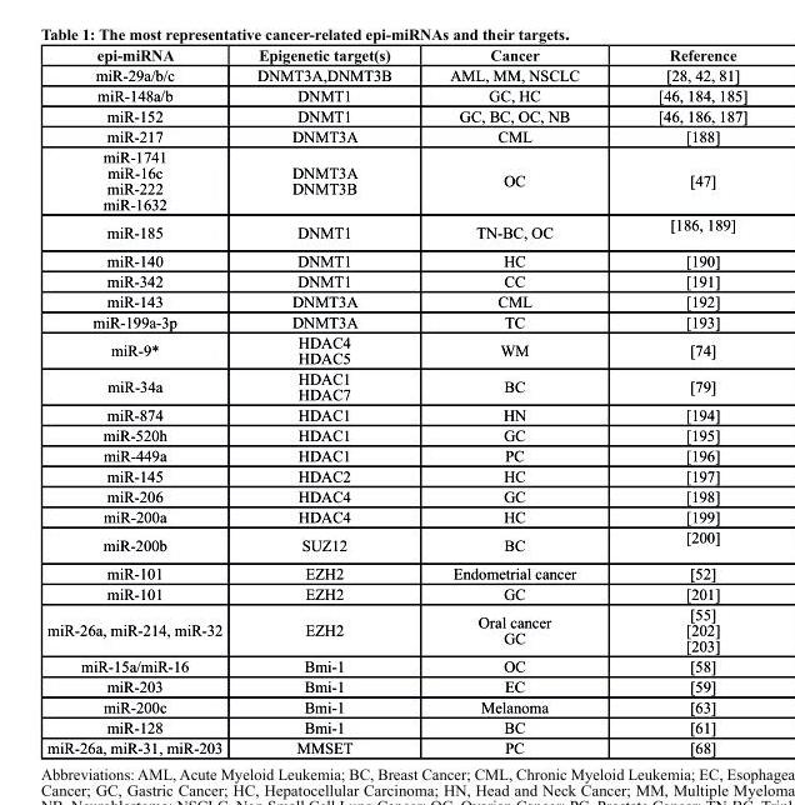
<table><thead><tr><td>epi-mirnA</td><td>Epigenetic target(s)</td><td>cancer</td><td>reference</td></tr></thead><tbody><tr><td>miR-29a/b/c</td><td>DNMT3A,DNMT3B</td><td>AML, MM, NSCLC</td><td>[28, 42, 81]</td></tr><tr><td>miR-148a/b</td><td>DNMT1</td><td>GC, HC</td><td>[46, 184, 185]</td></tr><tr><td>miR-152</td><td>DNMT1</td><td>GC, BC, OC, NB</td><td>[46, 186, 187]</td></tr><tr><td>miR-217</td><td>DNMT3A</td><td>CML</td><td>[188]</td></tr><tr><td>miR-1741 miR-16c miR-222 miR-1632</td><td>DNMT3A DNMT3B</td><td>OC</td><td>[47]</td></tr><tr><td>miR-185</td><td>DNMT1</td><td>TN-BC, OC</td><td>[186, 189]</td></tr><tr><td>miR-140</td><td>DNMT1</td><td>HC</td><td>[190]</td></tr><tr><td>miR-342</td><td>DNMT1</td><td>CC</td><td>[191]</td></tr><tr><td>miR-143</td><td>DNMT3A</td><td>CML</td><td>[192]</td></tr><tr><td>miR-199a-3p</td><td>DNMT3A</td><td>TC</td><td>[193]</td></tr><tr><td>miR-9*</td><td>HDAC4 HDAC5</td><td>WM</td><td>[74]</td></tr><tr><td>miR-34a</td><td>HDAC1 HDAC7</td><td>BC</td><td>[79]</td></tr><tr><td>miR-874</td><td>HDAC1</td><td>HN</td><td>[194]</td></tr><tr><td>miR-520h</td><td>HDAC1</td><td>GC</td><td>[195]</td></tr><tr><td>miR-449a</td><td>HDAC1</td><td>PC</td><td>[196]</td></tr><tr><td>miR-145</td><td>HDAC2</td><td>HC</td><td>[197]</td></tr><tr><td>miR-206</td><td>HDAC4</td><td>GC</td><td>[198]</td></tr><tr><td>miR-200a</td><td>HDAC4</td><td>HC</td><td>[199]</td></tr><tr><td>miR-200b</td><td>SUZ12</td><td>BC</td><td>[200]</td></tr><tr><td>miR-101</td><td>EZH2</td><td>Endometrial cancer</td><td>[52]</td></tr><tr><td>miR-101</td><td>EZH2</td><td>GC</td><td>[201]</td></tr><tr><td>miR-26a, miR-214, miR-32</td><td>EZH2</td><td>Oral cancer GC</td><td>[55] [202] [203]</td></tr><tr><td>miR-15a/miR-16</td><td>Bmi-1</td><td>OC</td><td>[58]</td></tr><tr><td>miR-203</td><td>Bmi-1</td><td>EC</td><td>[59]</td></tr><tr><td>miR-200c</td><td>Bmi-1</td><td>Melanoma</td><td>[63]</td></tr><tr><td>miR-128</td><td>Bmi-1</td><td>BC</td><td>[61]</td></tr><tr><td>miR-26a, miR-31, miR-203</td><td>MMSET</td><td>PC</td><td>[68]</td></tr></tbody></table>